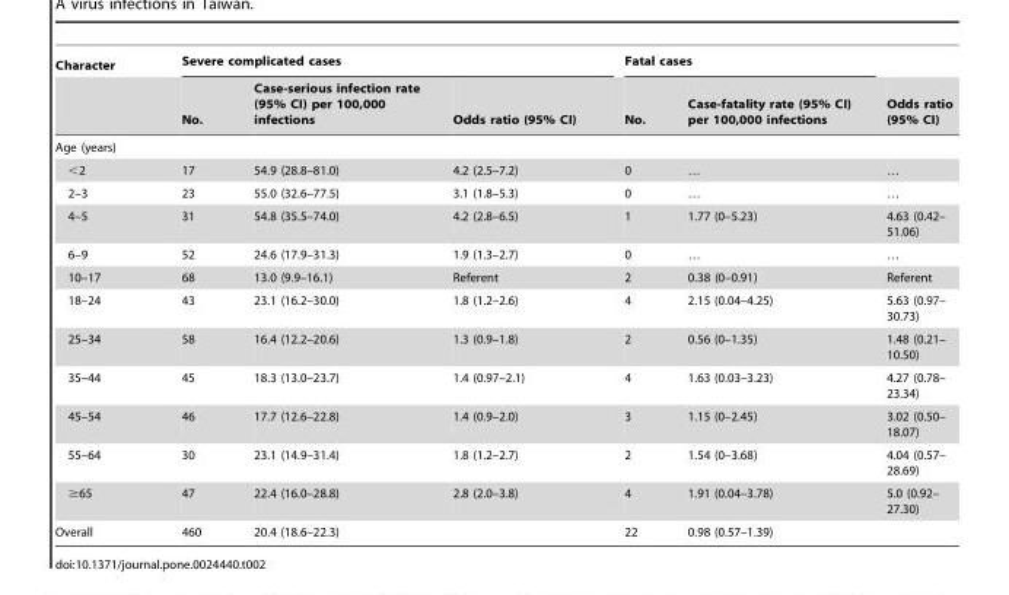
<table><thead><tr><td rowspan="2">Character</td><td colspan="3">Severe complicated cases</td><td colspan="2">Fatal cases</td><td rowspan="2">Odds ratio (95% CI)</td></tr><tr><td>No.</td><td>Case-serious infection rate (95% CI) per 100,000 infections</td><td>Odds ratio (95% CI)</td><td>No.</td><td>Case-fatality rate (95% CI) per 100,000 infections</td></tr></thead><tbody><tr><td colspan="7">Age (years)</td></tr><tr><td>&lt;2</td><td>17</td><td>54.9 (28.8–81.0)</td><td>4.2 (2.5–7.2)</td><td>0</td><td>…</td><td>…</td></tr><tr><td>2–3</td><td>23</td><td>55.0 (32.6–77.5)</td><td>3.1 (1.8–5.3)</td><td>0</td><td>…</td><td>…</td></tr><tr><td>4–5</td><td>31</td><td>54.8 (35.5–74.0)</td><td>4.2 (2.8–6.5)</td><td>1</td><td>1.77 (0–5.23)</td><td>4.63 (0.42– 51.06)</td></tr><tr><td>6–9</td><td>52</td><td>24.6 (17.9–31.3)</td><td>1.9 (1.3–2.7)</td><td>0</td><td>…</td><td>…</td></tr><tr><td>10–17</td><td>68</td><td>13.0 (9.9–16.1)</td><td>Referent</td><td>2</td><td>0.38 (0–0.91)</td><td>Referent</td></tr><tr><td>18–24</td><td>43</td><td>23.1 (16.2–30.0)</td><td>1.8 (1.2–2.6)</td><td>4</td><td>2.15 (0.04–4.25)</td><td>5.63 (0.97– 30.73)</td></tr><tr><td>25–34</td><td>58</td><td>16.4 (12.2–20.6)</td><td>1.3 (0.9–1.8)</td><td>2</td><td>0.56 (0–1.35)</td><td>1.48 (0.21– 10.50)</td></tr><tr><td>35–44</td><td>45</td><td>18.3 (13.0–23.7)</td><td>1.4 (0.97–2.1)</td><td>4</td><td>1.63 (0.03–3.23)</td><td>4.27 (0.78– 23.34)</td></tr><tr><td>45–54</td><td>46</td><td>17.7 (12.6–22.8)</td><td>1.4 (0.9–2.0)</td><td>3</td><td>1.15 (0–2.45)</td><td>3.02 (0.50– 18.07)</td></tr><tr><td>55–64</td><td>30</td><td>23.1 (14.9–31.4)</td><td>1.8 (1.2–2.7)</td><td>2</td><td>1.54 (0–3.68)</td><td>4.04 (0.57– 28.69)</td></tr><tr><td>≥65</td><td>47</td><td>22.4 (16.0–28.8)</td><td>2.8 (2.0–3.8)</td><td>4</td><td>1.91 (0.04–3.78)</td><td>5.0 (0.92– 27.30)</td></tr><tr><td>Overall</td><td>460</td><td>20.4 (18.6–22.3)</td><td></td><td>22</td><td>0.98 (0.57–1.39)</td><td></td></tr></tbody></table>